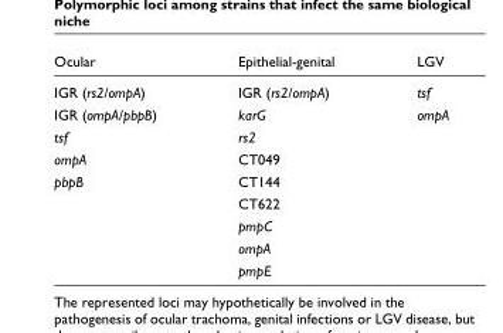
<table><thead><tr><td>Ocular</td><td>Epithelial-genital</td><td>LGV</td></tr></thead><tbody><tr><td>IGR (rs2/ompA)</td><td>IGR (rs2/ompA)</td><td>tsf</td></tr><tr><td>IGR (ompA/pbpB)</td><td>karG</td><td>ompA</td></tr><tr><td>tsf</td><td>rs2</td><td></td></tr><tr><td>ompA</td><td>CT049</td><td></td></tr><tr><td rowspan="5">pbpB</td><td>CT144</td><td></td></tr><tr><td>CT622</td><td></td></tr><tr><td>pmpC</td><td></td></tr><tr><td>ompA</td><td></td></tr><tr><td>pmpE</td><td></td></tr></tbody></table>